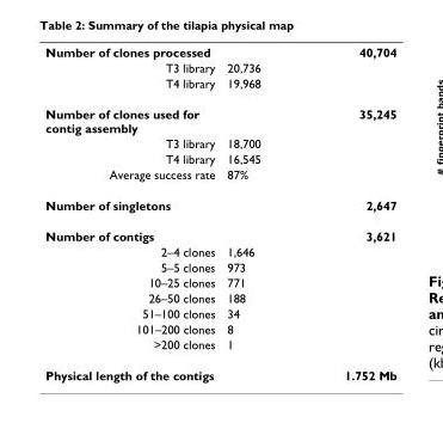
<table><tbody><tr><td>Number of clones processed</td><td>40,704</td></tr><tr><td>T3 library</td><td>20,736</td></tr><tr><td>T4 library</td><td>19,968</td></tr><tr><td>Number of clones used for contig assembly</td><td>35,245</td></tr><tr><td>T3 library</td><td>18,700</td></tr><tr><td>T4 library</td><td>16,545</td></tr><tr><td>Average success rate</td><td>87%</td></tr><tr><td>Number of singletons</td><td>2,647</td></tr><tr><td>Number of contigs</td><td>3,621</td></tr><tr><td>2–4 clones</td><td>1,646</td></tr><tr><td>5–5 clones</td><td>973</td></tr><tr><td>10–25 clones</td><td>771</td></tr><tr><td>26–50 clones</td><td>188</td></tr><tr><td>51–100 clones</td><td>34</td></tr><tr><td>101–200 clones</td><td>8</td></tr><tr><td>&gt;200 clones</td><td>1</td></tr><tr><td>Physical length of the contigs</td><td>1.752 Mb</td></tr></tbody></table>